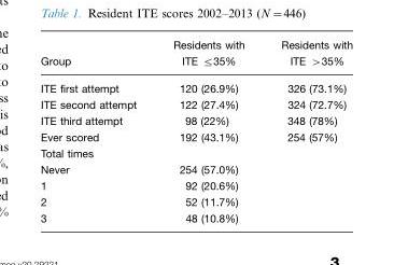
<table><thead><tr><td>Group</td><td>Residents with ITE ≤35%</td><td>Residents with ITE &gt;35%</td></tr></thead><tbody><tr><td>ITE first attempt</td><td>120 (26.9%)</td><td>326 (73.1%)</td></tr><tr><td>ITE second attempt</td><td>122 (27.4%)</td><td>324 (72.7%)</td></tr><tr><td>ITE third attempt</td><td>98 (22%)</td><td>348 (78%)</td></tr><tr><td>Ever scored</td><td>192 (43.1%)</td><td>254 (57%)</td></tr><tr><td colspan="3">Total times</td></tr><tr><td>Never</td><td>254 (57.0%)</td><td></td></tr><tr><td>1</td><td>92 (20.6%)</td><td></td></tr><tr><td>2</td><td>52 (11.7%)</td><td></td></tr><tr><td>3</td><td>48 (10.8%)</td><td></td></tr></tbody></table>